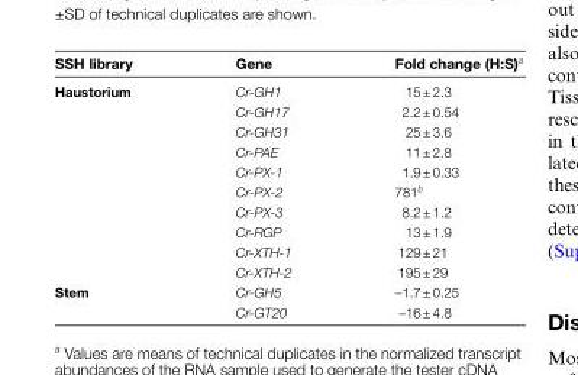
<table><thead><tr><td>SSH library</td><td>Gene</td><td>Fold change (H:S)<sup>a</sup></td></tr></thead><tbody><tr><td rowspan="10">Haustorium</td><td>Cr-GH1</td><td>15 ± 2.3</td></tr><tr><td>Cr-GH17</td><td>2.2 ± 0.54</td></tr><tr><td>Cr-GH31</td><td>25 ± 3.6</td></tr><tr><td>Cr-PAE</td><td>11 ± 2.8</td></tr><tr><td>Cr-PX-1</td><td>1.9 ± 0.33</td></tr><tr><td>Cr-PX-2</td><td>781<sup>b</sup></td></tr><tr><td>Cr-PX-3</td><td>8.2 ± 1.2</td></tr><tr><td>Cr-RGP</td><td>13 ± 1.9</td></tr><tr><td>Cr-XTH-1</td><td>129 ± 21</td></tr><tr><td>Cr-XTH-2</td><td>195 ± 29</td></tr><tr><td rowspan="2">Stem</td><td>Cr-GH5</td><td>–1.7 ± 0.25</td></tr><tr><td>Cr-GT20</td><td>–16 ± 4.8</td></tr></tbody></table>